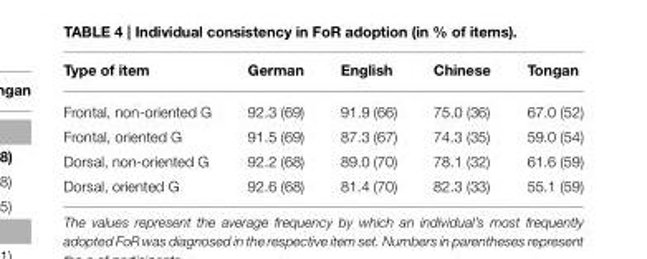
<table><thead><tr><td>Type of item</td><td>German</td><td>English</td><td>Chinese</td><td>Tongan</td></tr></thead><tbody><tr><td>Frontal, non-oriented G</td><td>92.3 (69)</td><td>91.9 (66)</td><td>75.0 (36)</td><td>67.0 (52)</td></tr><tr><td>Frontal, oriented G</td><td>91.5 (69)</td><td>87.3 (67)</td><td>74.3 (35)</td><td>59.0 (54)</td></tr><tr><td>Dorsal, non-oriented G</td><td>92.2 (68)</td><td>89.0 (70)</td><td>78.1 (32)</td><td>61.6 (59)</td></tr><tr><td>Dorsal, oriented G</td><td>92.6 (68)</td><td>81.4 (70)</td><td>82.3 (33)</td><td>55.1 (59)</td></tr></tbody></table>